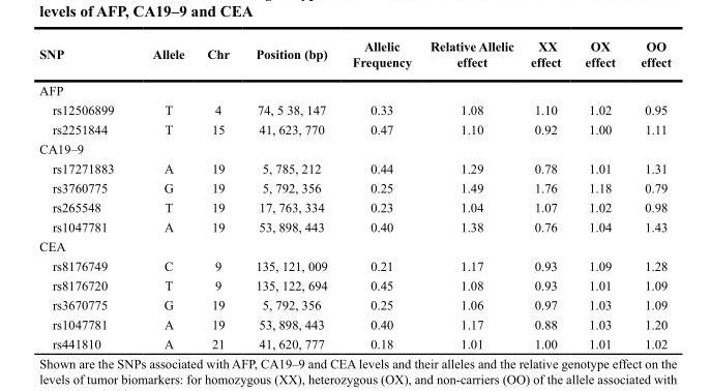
<table><thead><tr><td>SNP</td><td>Allele</td><td>Chr</td><td>Position (bp)</td><td>Allelic Frequency</td><td>Relative Allelic effect</td><td>XX effect</td><td>OX effect</td><td>OO effect</td></tr></thead><tbody><tr><td colspan="9">AFP</td></tr><tr><td>rs12506899</td><td>T</td><td>4</td><td>74, 5 38, 147</td><td>0.33</td><td>1.08</td><td>1.10</td><td>1.02</td><td>0.95</td></tr><tr><td>rs2251844</td><td>T</td><td>15</td><td>41, 623, 770</td><td>0.47</td><td>1.10</td><td>0.92</td><td>1.00</td><td>1.11</td></tr><tr><td colspan="9">CA19–9</td></tr><tr><td>rs17271883</td><td>A</td><td>19</td><td>5, 785, 212</td><td>0.44</td><td>1.29</td><td>0.78</td><td>1.01</td><td>1.31</td></tr><tr><td>rs3760775</td><td>G</td><td>19</td><td>5, 792, 356</td><td>0.25</td><td>1.49</td><td>1.76</td><td>1.18</td><td>0.79</td></tr><tr><td>rs265548</td><td>T</td><td>19</td><td>17, 763, 334</td><td>0.23</td><td>1.04</td><td>1.07</td><td>1.02</td><td>0.98</td></tr><tr><td>rs1047781</td><td>A</td><td>19</td><td>53, 898, 443</td><td>0.40</td><td>1.38</td><td>0.76</td><td>1.04</td><td>1.43</td></tr><tr><td colspan="9">CEA</td></tr><tr><td>rs8176749</td><td>C</td><td>9</td><td>135, 121, 009</td><td>0.21</td><td>1.17</td><td>0.93</td><td>1.09</td><td>1.28</td></tr><tr><td>rs8176720</td><td>T</td><td>9</td><td>135, 122, 694</td><td>0.45</td><td>1.08</td><td>0.93</td><td>1.01</td><td>1.09</td></tr><tr><td>rs3670775</td><td>G</td><td>19</td><td>5, 792, 356</td><td>0.25</td><td>1.06</td><td>0.97</td><td>1.03</td><td>1.09</td></tr><tr><td>rs1047781</td><td>A</td><td>19</td><td>53, 898, 443</td><td>0.40</td><td>1.17</td><td>0.88</td><td>1.03</td><td>1.20</td></tr><tr><td>rs441810</td><td>A</td><td>21</td><td>41, 620, 777</td><td>0.18</td><td>1.01</td><td>1.00</td><td>1.01</td><td>1.02</td></tr></tbody></table>